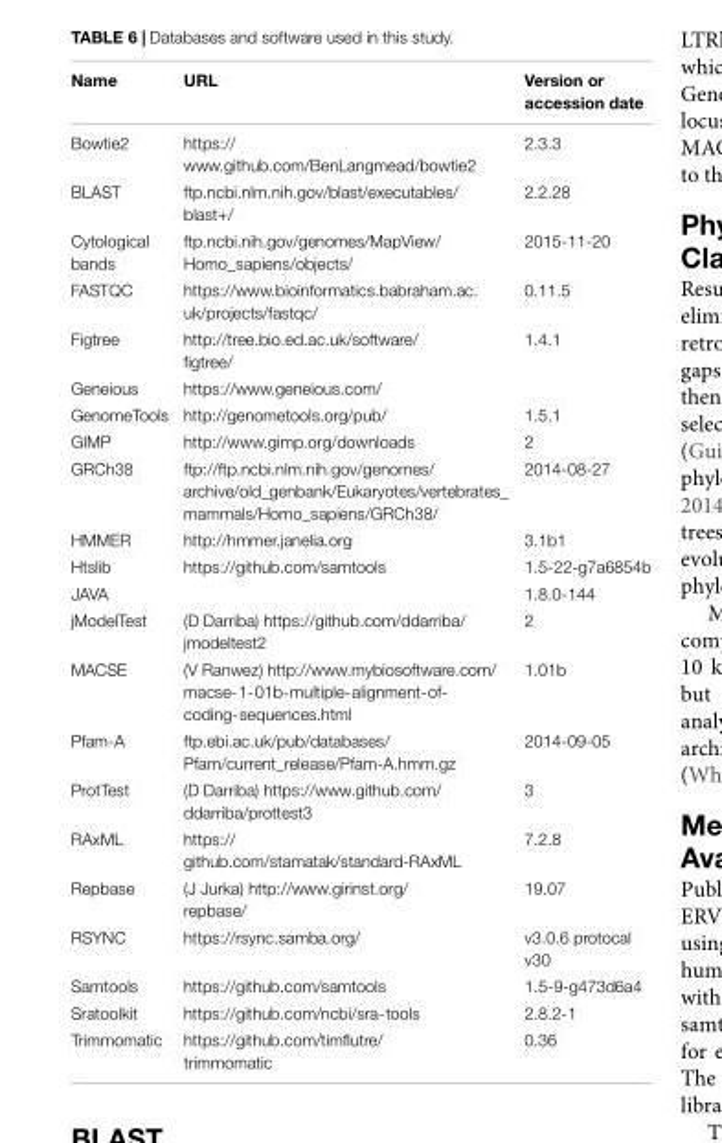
<table><thead><tr><td>Name</td><td>URL</td><td>Version or accession date</td></tr></thead><tbody><tr><td>Bowtie2</td><td>https:// www.github.com/BenLangmead/bowtie2</td><td>2.3.3</td></tr><tr><td>BLAST</td><td>ftp.ncbi.nlm.nih.gov/blast/executables/ blast+/</td><td>2.2.28</td></tr><tr><td>Cytological bands</td><td>ftp.ncbi.nih.gov/genomes/MapView/ Homo_sapiens/objects/</td><td>2015-11-20</td></tr><tr><td>FASTQC</td><td>https://www.bioinformatics.babraham.ac. uk/projects/fastqc/</td><td>0.11.5</td></tr><tr><td>Figtree</td><td>http://tree.bio.ed.ac.uk/software/ figtree/</td><td>1.4.1</td></tr><tr><td>Geneious</td><td>https://www.geneious.com/</td><td></td></tr><tr><td>GenomeTools</td><td>http://genometools.org/pub/</td><td>1.5.1</td></tr><tr><td>GIMP</td><td>http://www.gimp.org/downloads</td><td>2</td></tr><tr><td>GRCh38</td><td>ftp://ftp.ncbi.nlm.nih.gov/genomes/ archive/old_genbank/Eukaryotes/vertebrates_ mammals/Homo_sapiens/GRCh38/</td><td>2014-08-27</td></tr><tr><td>HMMER</td><td>http://hmmer.janelia.org</td><td>3.1b1</td></tr><tr><td>Htslib</td><td>https://github.com/samtools</td><td>1.5-22-g7a6854b</td></tr><tr><td>JAVA</td><td></td><td>1.8.0-144</td></tr><tr><td>jModelTest</td><td>(D Darriba) https://github.com/ddarriba/ jmodeltest2</td><td>2</td></tr><tr><td>MACSE</td><td>(V Ranwez) http://www.mybiosoftware.com/ macse-1-01b-multiple-alignment-of- coding-sequences.html</td><td>1.01b</td></tr><tr><td>Pfam-A</td><td>ftp.ebi.ac.uk/pub/databases/ Pfam/current_release/Pfam-A.hmm.gz</td><td>2014-09-05</td></tr><tr><td>ProtTest</td><td>(D Darriba) https://www.github.com/ ddarriba/prottest3</td><td>3</td></tr><tr><td>RAxML</td><td>https:// github.com/stamatak/standard-RAxML</td><td>7.2.8</td></tr><tr><td>Repbase</td><td>(J Jurka) http://www.girinst.org/ repbase/</td><td>19.07</td></tr><tr><td>RSYNC</td><td>https://rsync.samba.org/</td><td>v3.0.6 protocal v30</td></tr><tr><td>Samtools</td><td>https://github.com/samtools</td><td>1.5-9-g473d6a4</td></tr><tr><td>Sratoolkit</td><td>https://github.com/ncbi/sra-tools</td><td>2.8.2-1</td></tr><tr><td>Trimmomatic</td><td>https://github.com/timflutre/ trimmomatic</td><td>0.36</td></tr></tbody></table>